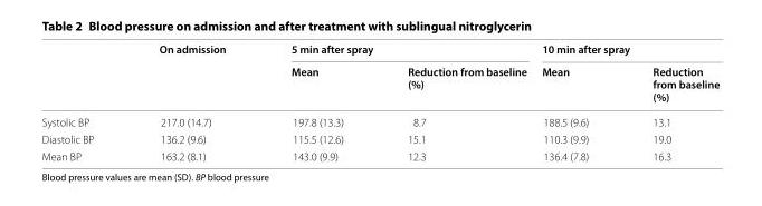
<table><thead><tr><td rowspan="2"></td><td rowspan="2">On admission</td><td colspan="2">5 min after spray</td><td colspan="2">10 min after spray</td></tr><tr><td>Mean</td><td>Reduction from baseline (%)</td><td>Mean</td><td>Reduction from baseline (%)</td></tr></thead><tbody><tr><td>Systolic BP</td><td>217.0 (14.7)</td><td>197.8 (13.3)</td><td>8.7</td><td>188.5 (9.6)</td><td>13.1</td></tr><tr><td>Diastolic BP</td><td>136.2 (9.6)</td><td>115.5 (12.6)</td><td>15.1</td><td>110.3 (9.9)</td><td>19.0</td></tr><tr><td>Mean BP</td><td>163.2 (8.1)</td><td>143.0 (9.9)</td><td>12.3</td><td>136.4 (7.8)</td><td>16.3</td></tr></tbody></table>